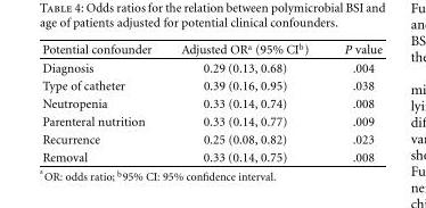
<table><thead><tr><td>Potential confounder</td><td>Adjusted OR<sup>a</sup> (95% CI<sup>b</sup>)</td><td>P value</td></tr></thead><tbody><tr><td>Diagnosis</td><td>0.29 (0.13, 0.68)</td><td>.004</td></tr><tr><td>Type of catheter</td><td>0.39 (0.16, 0.95)</td><td>.038</td></tr><tr><td>Neutropenia</td><td>0.33 (0.14, 0.74)</td><td>.008</td></tr><tr><td>Parenteral nutrition</td><td>0.33 (0.14, 0.77)</td><td>.009</td></tr><tr><td>Recurrence</td><td>0.25 (0.08, 0.82)</td><td>.023</td></tr><tr><td>Removal</td><td>0.33 (0.14, 0.75)</td><td>.008</td></tr></tbody></table>